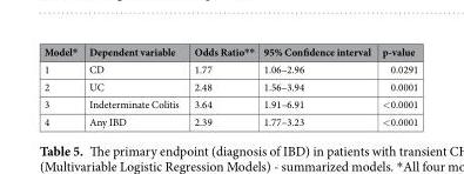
<table><thead><tr><td>Model*</td><td>Dependent variable</td><td>Odds Ratio**</td><td>95% Confidence interval</td><td>p-value</td></tr></thead><tbody><tr><td>1</td><td>CD</td><td>1.77</td><td>1.06–2.96</td><td>0.0291</td></tr><tr><td>2</td><td>UC</td><td>2.48</td><td>1.56–3.94</td><td>0.0001</td></tr><tr><td>3</td><td>Indeterminate Colitis</td><td>3.64</td><td>1.91–6.91</td><td>&lt;0.0001</td></tr><tr><td>4</td><td>Any IBD</td><td>2.39</td><td>1.77–3.23</td><td>&lt;0.0001</td></tr></tbody></table>